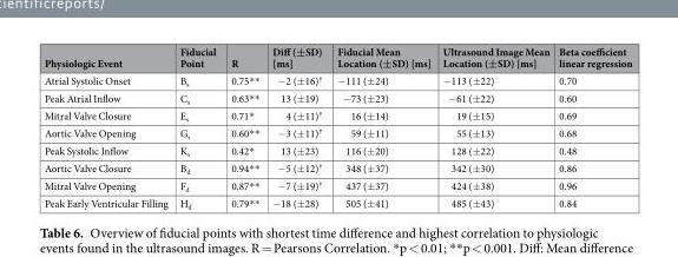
<table><thead><tr><td>Physiologic Event</td><td>Fiducial Point</td><td>R</td><td>Diff (±SD) [ms]</td><td>Fiducial Mean Location (±SD) [ms]</td><td>Ultrasound Image Mean Location (±SD) [ms]</td><td>Beta coefficient linear regression</td></tr></thead><tbody><tr><td>Atrial Systolic Onset</td><td>B<sub>s</sub></td><td>0.75**</td><td>−2 (±16)<sup>†</sup></td><td>−111 (±24)</td><td>−113 (±22)</td><td>0.70</td></tr><tr><td>Peak Atrial Inflow</td><td>C<sub>s</sub></td><td>0.63**</td><td>13 (±19)</td><td>−73 (±23)</td><td>−61 (±22)</td><td>0.60</td></tr><tr><td>Mitral Valve Closure</td><td>E<sub>s</sub></td><td>0.71*</td><td>4 (±11)<sup>†</sup></td><td>16 (±14)</td><td>19 (±15)</td><td>0.69</td></tr><tr><td>Aortic Valve Opening</td><td>G<sub>s</sub></td><td>0.60**</td><td>−3 (±11)<sup>†</sup></td><td>59 (±11)</td><td>55 (±13)</td><td>0.68</td></tr><tr><td>Peak Systolic Inflow</td><td>K<sub>s</sub></td><td>0.42*</td><td>13 (±23)</td><td>116 (±20)</td><td>128 (±22)</td><td>0.48</td></tr><tr><td>Aortic Valve Closure</td><td>B<sub>d</sub></td><td>0.94**</td><td>−5 (±12)<sup>†</sup></td><td>348 (±37)</td><td>342 (±30)</td><td>0.86</td></tr><tr><td>Mitral Valve Opening</td><td>F<sub>d</sub></td><td>0.87**</td><td>−7 (±19)<sup>†</sup></td><td>437 (±37)</td><td>424 (±38)</td><td>0.96</td></tr><tr><td>Peak Early Ventricular Filling</td><td>H<sub>d</sub></td><td>0.79**</td><td>−18 (±28)</td><td>505 (±41)</td><td>485 (±43)</td><td>0.84</td></tr></tbody></table>